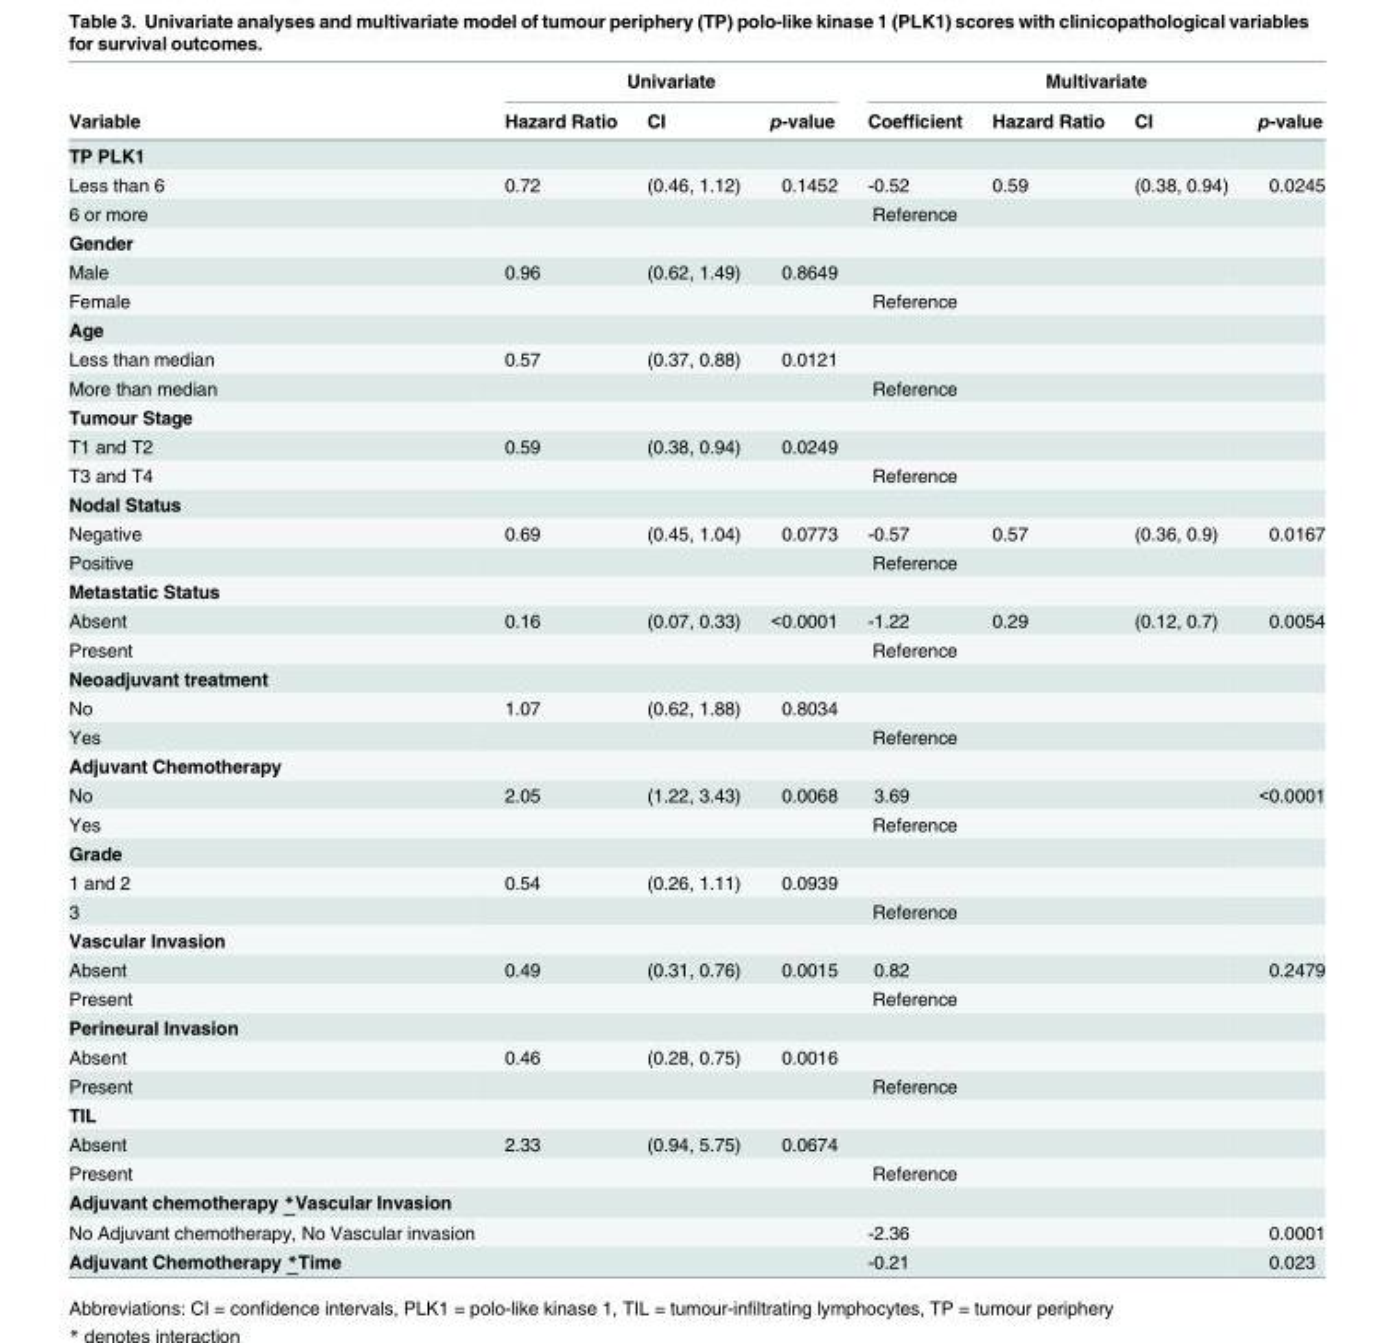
<table><thead><tr><td rowspan="2">Variable</td><td colspan="3">Univariate</td><td colspan="4">Multivariate</td></tr><tr><td>Hazard Ratio</td><td>CI</td><td>p-value</td><td>Coefficient</td><td>Hazard Ratio</td><td>CI</td><td>p-value</td></tr></thead><tbody><tr><td colspan="8">TP PLK1</td></tr><tr><td>Less than 6</td><td>0.72</td><td>(0.46, 1.12)</td><td>0.1452</td><td>-0.52</td><td>0.59</td><td>(0.38, 0.94)</td><td>0.0245</td></tr><tr><td>6 or more</td><td colspan="7">Reference</td></tr><tr><td colspan="8">Gender</td></tr><tr><td>Male</td><td>0.96</td><td>(0.62, 1.49)</td><td>0.8649</td><td></td><td></td><td></td><td></td></tr><tr><td>Female</td><td colspan="7">Reference</td></tr><tr><td colspan="8">Age</td></tr><tr><td>Less than median</td><td>0.57</td><td>(0.37, 0.88)</td><td>0.0121</td><td></td><td></td><td></td><td></td></tr><tr><td>More than median</td><td colspan="7">Reference</td></tr><tr><td colspan="8">Tumour Stage</td></tr><tr><td>T1 and T2</td><td>0.59</td><td>(0.38, 0.94)</td><td>0.0249</td><td></td><td></td><td></td><td></td></tr><tr><td>T3 and T4</td><td colspan="7">Reference</td></tr><tr><td colspan="8">Nodal Status</td></tr><tr><td>Negative</td><td>0.69</td><td>(0.45, 1.04)</td><td>0.0773</td><td>-0.57</td><td>0.57</td><td>(0.36, 0.9)</td><td>0.0167</td></tr><tr><td>Positive</td><td colspan="7">Reference</td></tr><tr><td colspan="8">Metastatic Status</td></tr><tr><td>Absent</td><td>0.16</td><td>(0.07, 0.33)</td><td>&lt;0.0001</td><td>-1.22</td><td>0.29</td><td>(0.12, 0.7)</td><td>0.0054</td></tr><tr><td>Present</td><td colspan="7">Reference</td></tr><tr><td colspan="8">Neoadjuvant treatment</td></tr><tr><td>No</td><td>1.07</td><td>(0.62, 1.88)</td><td>0.8034</td><td></td><td></td><td></td><td></td></tr><tr><td>Yes</td><td colspan="7">Reference</td></tr><tr><td colspan="8">Adjuvant Chemotherapy</td></tr><tr><td>No</td><td>2.05</td><td>(1.22, 3.43)</td><td>0.0068</td><td>3.69</td><td></td><td></td><td>&lt;0.0001</td></tr><tr><td>Yes</td><td colspan="7">Reference</td></tr><tr><td colspan="8">Grade</td></tr><tr><td>1 and 2</td><td>0.54</td><td>(0.26, 1.11)</td><td>0.0939</td><td></td><td></td><td></td><td></td></tr><tr><td>3</td><td colspan="7">Reference</td></tr><tr><td colspan="8">Vascular Invasion</td></tr><tr><td>Absent</td><td>0.49</td><td>(0.31, 0.76)</td><td>0.0015</td><td>0.82</td><td></td><td></td><td>0.2479</td></tr><tr><td>Present</td><td colspan="7">Reference</td></tr><tr><td colspan="8">Perineural Invasion</td></tr><tr><td>Absent</td><td>0.46</td><td>(0.28, 0.75)</td><td>0.0016</td><td></td><td></td><td></td><td></td></tr><tr><td>Present</td><td colspan="7">Reference</td></tr><tr><td colspan="8">TIL</td></tr><tr><td>Absent</td><td>2.33</td><td>(0.94, 5.75)</td><td>0.0674</td><td></td><td></td><td></td><td></td></tr><tr><td>Present</td><td colspan="7">Reference</td></tr><tr><td colspan="8">Adjuvant chemotherapy *Vascular Invasion</td></tr><tr><td>No Adjuvant chemotherapy, No Vascular invasion</td><td></td><td></td><td></td><td>-2.36</td><td></td><td></td><td>0.0001</td></tr><tr><td>Adjuvant Chemotherapy *Time</td><td></td><td></td><td></td><td>-0.21</td><td></td><td></td><td>0.023</td></tr></tbody></table>